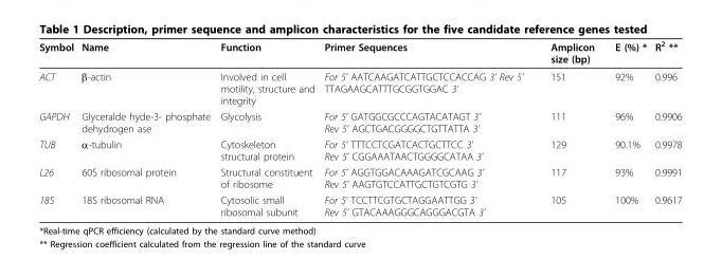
<table><thead><tr><td>Symbol</td><td>Name</td><td>Function</td><td>Primer Sequences</td><td>Amplicon size (bp)</td><td>E (%) *</td><td>R<sup>2</sup> **</td></tr></thead><tbody><tr><td>ACT</td><td>β-actin</td><td>Involved in cell motility, structure and integrity</td><td>For 5’ AATCAAGATCATTGCTCCACCAG 3’ Rev 5’ TTAGAAGCATTTGCGGTGGAC 3’</td><td>151</td><td>92%</td><td>0.996</td></tr><tr><td>GAPDH</td><td>Glyceralde hyde-3- phosphate dehydrogen ase</td><td>Glycolysis</td><td>For 5’ GATGGCGCCCAGTACATAGT 3’ Rev 5’ AGCTGACGGGGCTGTTATTA 3’</td><td>111</td><td>96%</td><td>0.9906</td></tr><tr><td>TUB</td><td>α-tubulin</td><td>Cytoskeleton structural protein</td><td>For 5’ TTTCCTCGATCACTGCTTCC 3’ Rev 5’ CGGAAATAACTGGGGCATAA 3’</td><td>129</td><td>90.1%</td><td>0.9978</td></tr><tr><td>L26</td><td>60S ribosomal protein</td><td>Structural constituent of ribosome</td><td>For 5’ AGGTGGACAAAGATCGCAAG 3’ Rev 5’ AAGTGTCCATTGCTGTCGTG 3’</td><td>117</td><td>93%</td><td>0.9991</td></tr><tr><td>18S</td><td>18S ribosomal RNA</td><td>Cytosolic small ribosomal subunit</td><td>For 5’ TCCTTCGTGCTAGGAATTGG 3’ Rev 5’ GTACAAAGGGCAGGGACGTA 3’</td><td>105</td><td>100%</td><td>0.9617</td></tr></tbody></table>